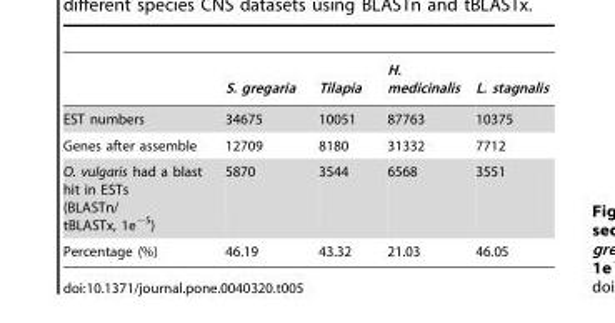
<table><thead><tr><td></td><td>S. gregaria</td><td>Tilapia</td><td>H. medicinalis</td><td>L. stagnalis</td></tr></thead><tbody><tr><td>EST numbers</td><td>34675</td><td>10051</td><td>87763</td><td>10375</td></tr><tr><td>Genes after assemble</td><td>12709</td><td>8180</td><td>31332</td><td>7712</td></tr><tr><td>O. vulgaris had a blast hit in ESTs (BLASTn/ tBLASTx, 1e<sup>−5</sup>)</td><td>5870</td><td>3544</td><td>6568</td><td>3551</td></tr><tr><td>Percentage (%)</td><td>46.19</td><td>43.32</td><td>21.03</td><td>46.05</td></tr></tbody></table>